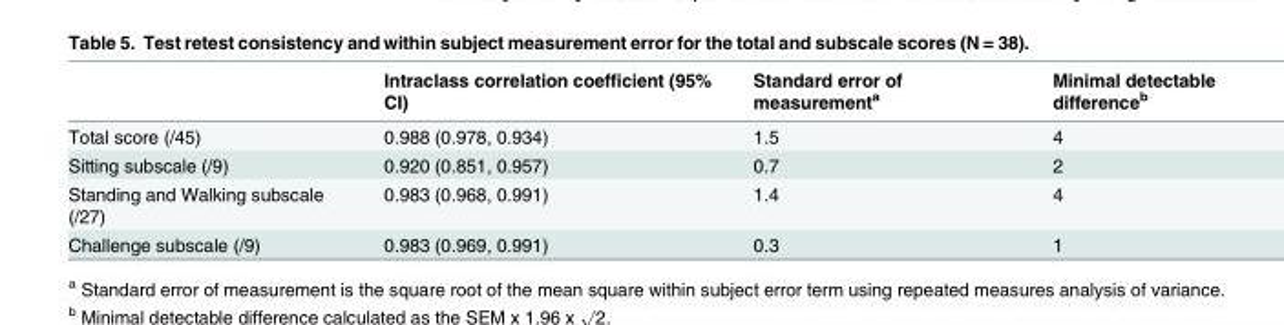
<table><thead><tr><td></td><td>Intraclass correlation coefficient (95% CI)</td><td>Standard error of measurement<sup>a</sup></td><td>Minimal detectable difference<sup>b</sup></td></tr></thead><tbody><tr><td>Total score (/45)</td><td>0.988 (0.978, 0.934)</td><td>1.5</td><td>4</td></tr><tr><td>Sitting subscale (/9)</td><td>0.920 (0.851, 0.957)</td><td>0.7</td><td>2</td></tr><tr><td>Standing and Walking subscale (/27)</td><td>0.983 (0.968, 0.991)</td><td>1.4</td><td>4</td></tr><tr><td>Challenge subscale (/9)</td><td>0.983 (0.969, 0.991)</td><td>0.3</td><td>1</td></tr></tbody></table>